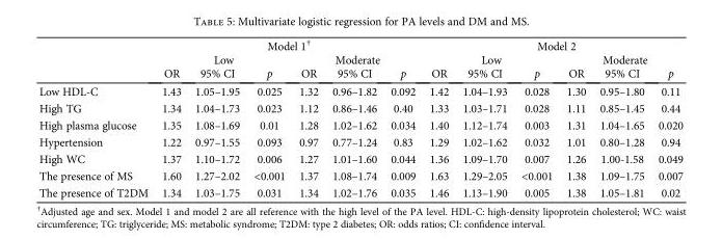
<table><thead><tr><td rowspan="3"></td><td colspan="6">Model 1<sup>†</sup></td><td colspan="6">Model 2</td></tr><tr><td colspan="3">Low</td><td colspan="3">Moderate</td><td colspan="3">Low</td><td colspan="3">Moderate</td></tr><tr><td>OR</td><td>95% CI</td><td>p</td><td>OR</td><td>95% CI</td><td>p</td><td>OR</td><td>95% CI</td><td>p</td><td>OR</td><td>95% CI</td><td>p</td></tr></thead><tbody><tr><td>Low HDL-C</td><td>1.43</td><td>1.05–1.95</td><td>0.025</td><td>1.32</td><td>0.96–1.82</td><td>0.092</td><td>1.42</td><td>1.04–1.93</td><td>0.028</td><td>1.30</td><td>0.95–1.80</td><td>0.11</td></tr><tr><td>High TG</td><td>1.34</td><td>1.04–1.73</td><td>0.023</td><td>1.12</td><td>0.86–1.46</td><td>0.40</td><td>1.33</td><td>1.03–1.71</td><td>0.028</td><td>1.11</td><td>0.85–1.45</td><td>0.44</td></tr><tr><td>High plasma glucose</td><td>1.35</td><td>1.08–1.69</td><td>0.01</td><td>1.28</td><td>1.02–1.62</td><td>0.034</td><td>1.40</td><td>1.12–1.74</td><td>0.003</td><td>1.31</td><td>1.04–1.65</td><td>0.020</td></tr><tr><td>Hypertension</td><td>1.22</td><td>0.97–1.55</td><td>0.093</td><td>0.97</td><td>0.77–1.24</td><td>0.83</td><td>1.29</td><td>1.02–1.62</td><td>0.032</td><td>1.01</td><td>0.80–1.28</td><td>0.94</td></tr><tr><td>High WC</td><td>1.37</td><td>1.10–1.72</td><td>0.006</td><td>1.27</td><td>1.01–1.60</td><td>0.044</td><td>1.36</td><td>1.09–1.70</td><td>0.007</td><td>1.26</td><td>1.00-1.58</td><td>0.049</td></tr><tr><td>The presence of MS</td><td>1.60</td><td>1.27–2.02</td><td>&lt;0.001</td><td>1.37</td><td>1.08–1.74</td><td>0.009</td><td>1.63</td><td>1.29–2.05</td><td>&lt;0.001</td><td>1.38</td><td>1.09–1.75</td><td>0.007</td></tr><tr><td>The presence of T2DM</td><td>1.34</td><td>1.03–1.75</td><td>0.031</td><td>1.34</td><td>1.02–1.76</td><td>0.035</td><td>1.46</td><td>1.13–1.90</td><td>0.005</td><td>1.38</td><td>1.05–1.81</td><td>0.02</td></tr></tbody></table>